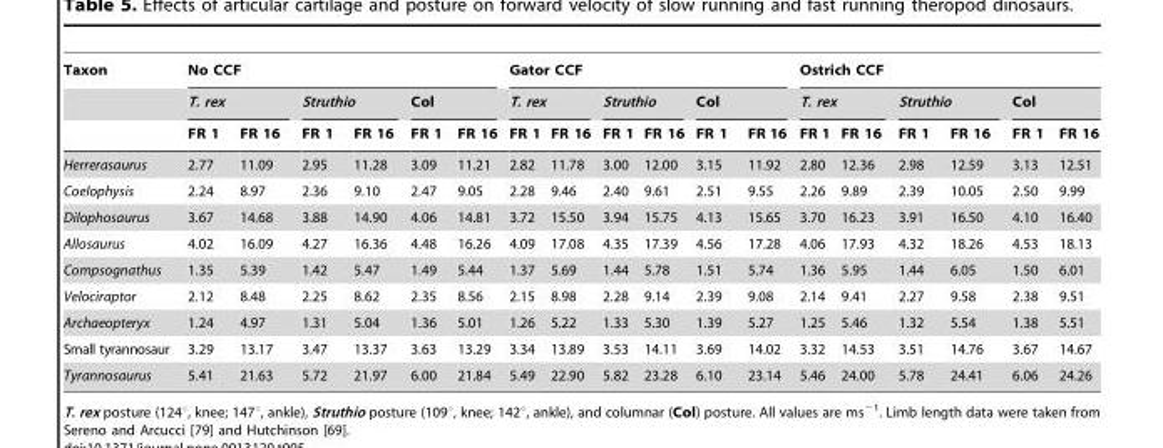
<table><thead><tr><td rowspan="3">Taxon</td><td colspan="6">No CCF</td><td colspan="6">Gator CCF</td><td colspan="6">Ostrich CCF</td></tr><tr><td colspan="2">T. rex</td><td colspan="2">Struthio</td><td colspan="2">Col</td><td colspan="2">T. rex</td><td colspan="2">Struthio</td><td colspan="2">Col</td><td colspan="2">T. rex</td><td colspan="2">Struthio</td><td colspan="2">Col</td></tr><tr><td>FR 1</td><td>FR 16</td><td>FR 1</td><td>FR 16</td><td>FR 1</td><td>FR 16</td><td>FR 1</td><td>FR 16</td><td>FR 1</td><td>FR 16</td><td>FR 1</td><td>FR 16</td><td>FR 1</td><td>FR 16</td><td>FR 1</td><td>FR 16</td><td>FR 1</td><td>FR 16</td></tr></thead><tbody><tr><td>Herrerasaurus</td><td>2.77</td><td>11.09</td><td>2.95</td><td>11.28</td><td>3.09</td><td>11.21</td><td>2.82</td><td>11.78</td><td>3.00</td><td>12.00</td><td>3.15</td><td>11.92</td><td>2.80</td><td>12.36</td><td>2.98</td><td>12.59</td><td>3.13</td><td>12.51</td></tr><tr><td>Coelophysis</td><td>2.24</td><td>8.97</td><td>2.36</td><td>9.10</td><td>2.47</td><td>9.05</td><td>2.28</td><td>9.46</td><td>2.40</td><td>9.61</td><td>2.51</td><td>9.55</td><td>2.26</td><td>9.89</td><td>2.39</td><td>10.05</td><td>2.50</td><td>9.99</td></tr><tr><td>Dilophosaurus</td><td>3.67</td><td>14.68</td><td>3.88</td><td>14.90</td><td>4.06</td><td>14.81</td><td>3.72</td><td>15.50</td><td>3.94</td><td>15.75</td><td>4.13</td><td>15.65</td><td>3.70</td><td>16.23</td><td>3.91</td><td>16.50</td><td>4.10</td><td>16.40</td></tr><tr><td>Allosaurus</td><td>4.02</td><td>16.09</td><td>4.27</td><td>16.36</td><td>4.48</td><td>16.26</td><td>4.09</td><td>17.08</td><td>4.35</td><td>17.39</td><td>4.56</td><td>17.28</td><td>4.06</td><td>17.93</td><td>4.32</td><td>18.26</td><td>4.53</td><td>18.13</td></tr><tr><td>Compsognathus</td><td>1.35</td><td>5.39</td><td>1.42</td><td>5.47</td><td>1.49</td><td>5.44</td><td>1.37</td><td>5.69</td><td>1.44</td><td>5.78</td><td>1.51</td><td>5.74</td><td>1.36</td><td>5.95</td><td>1.44</td><td>6.05</td><td>1.50</td><td>6.01</td></tr><tr><td>Velociraptor</td><td>2.12</td><td>8.48</td><td>2.25</td><td>8.62</td><td>2.35</td><td>8.56</td><td>2.15</td><td>8.98</td><td>2.28</td><td>9.14</td><td>2.39</td><td>9.08</td><td>2.14</td><td>9.41</td><td>2.27</td><td>9.58</td><td>2.38</td><td>9.51</td></tr><tr><td>Archaeopteryx</td><td>1.24</td><td>4.97</td><td>1.31</td><td>5.04</td><td>1.36</td><td>5.01</td><td>1.26</td><td>5.22</td><td>1.33</td><td>5.30</td><td>1.39</td><td>5.27</td><td>1.25</td><td>5.46</td><td>1.32</td><td>5.54</td><td>1.38</td><td>5.51</td></tr><tr><td>Small tyrannosaur</td><td>3.29</td><td>13.17</td><td>3.47</td><td>13.37</td><td>3.63</td><td>13.29</td><td>3.34</td><td>13.89</td><td>3.53</td><td>14.11</td><td>3.69</td><td>14.02</td><td>3.32</td><td>14.53</td><td>3.51</td><td>14.76</td><td>3.67</td><td>14.67</td></tr><tr><td>Tyrannosaurus</td><td>5.41</td><td>21.63</td><td>5.72</td><td>21.97</td><td>6.00</td><td>21.84</td><td>5.49</td><td>22.90</td><td>5.82</td><td>23.28</td><td>6.10</td><td>23.14</td><td>5.46</td><td>24.00</td><td>5.78</td><td>24.41</td><td>6.06</td><td>24.26</td></tr></tbody></table>